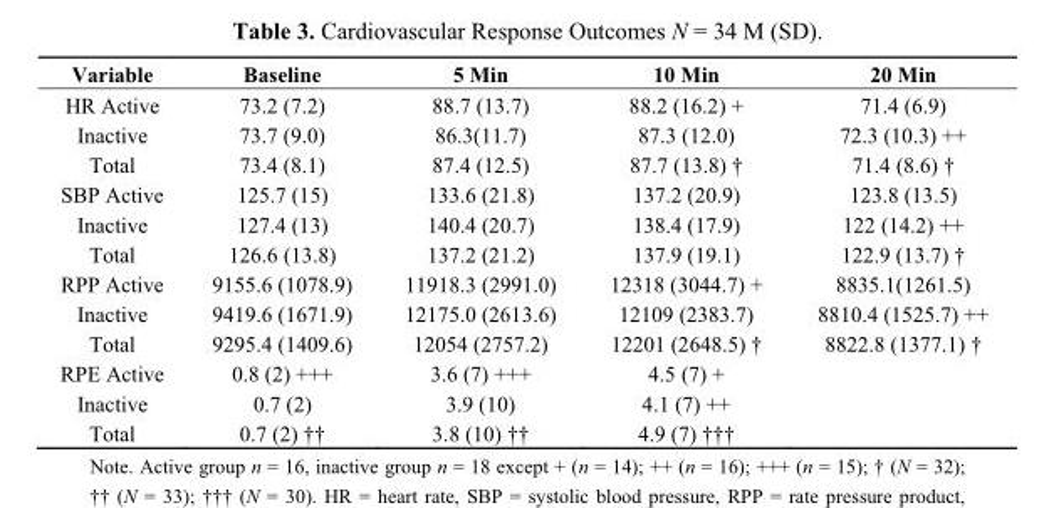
<table><thead><tr><td>Variable</td><td>Baseline</td><td>5 Min</td><td>10 Min</td><td>20 Min</td></tr></thead><tbody><tr><td>HR Active</td><td>73.2 (7.2)</td><td>88.7 (13.7)</td><td>88.2 (16.2) +</td><td>71.4 (6.9)</td></tr><tr><td>Inactive</td><td>73.7 (9.0)</td><td>86.3(11.7)</td><td>87.3 (12.0)</td><td>72.3 (10.3) ++</td></tr><tr><td>Total</td><td>73.4 (8.1)</td><td>87.4 (12.5)</td><td>87.7 (13.8) †</td><td>71.4 (8.6) †</td></tr><tr><td>SBP Active</td><td>125.7 (15)</td><td>133.6 (21.8)</td><td>137.2 (20.9)</td><td>123.8 (13.5)</td></tr><tr><td>Inactive</td><td>127.4 (13)</td><td>140.4 (20.7)</td><td>138.4 (17.9)</td><td>122 (14.2) ++</td></tr><tr><td>Total</td><td>126.6 (13.8)</td><td>137.2 (21.2)</td><td>137.9 (19.1)</td><td>122.9 (13.7) †</td></tr><tr><td>RPP Active</td><td>9155.6 (1078.9)</td><td>11918.3 (2991.0)</td><td>12318 (3044.7) +</td><td>8835.1(1261.5)</td></tr><tr><td>Inactive</td><td>9419.6 (1671.9)</td><td>12175.0 (2613.6)</td><td>12109 (2383.7)</td><td>8810.4 (1525.7) ++</td></tr><tr><td>Total</td><td>9295.4 (1409.6)</td><td>12054 (2757.2)</td><td>12201 (2648.5) †</td><td>8822.8 (1377.1) †</td></tr><tr><td>RPE Active</td><td>0.8 (2) +++</td><td>3.6 (7) +++</td><td>4.5 (7) +</td><td></td></tr><tr><td>Inactive</td><td>0.7 (2)</td><td>3.9 (10)</td><td>4.1 (7) ++</td><td></td></tr><tr><td>Total</td><td>0.7 (2) ††</td><td>3.8 (10) ††</td><td>4.9 (7) †††</td><td></td></tr></tbody></table>